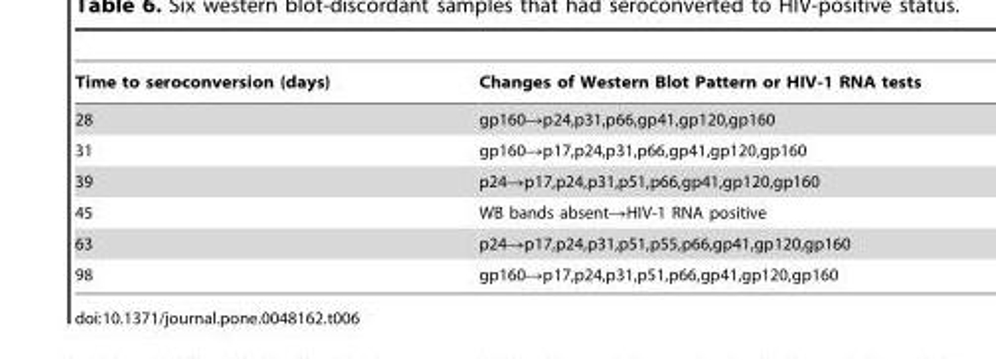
<table><thead><tr><td>Time to seroconversion (days)</td><td>Changes of Western Blot Pattern or HIV-1 RNA tests</td></tr></thead><tbody><tr><td>28</td><td>gp160→p24,p31,p66,gp41,gp120,gp160</td></tr><tr><td>31</td><td>gp160→p17,p24,p31,p66,gp41,gp120,gp160</td></tr><tr><td>39</td><td>p24→p17,p24,p31,p51,p66,gp41,gp120,gp160</td></tr><tr><td>45</td><td>WB bands absent→HIV-1 RNA positive</td></tr><tr><td>63</td><td>p24→p17,p24,p31,p51,p55,p66,gp41,gp120,gp160</td></tr><tr><td>98</td><td>gp160→p17,p24,p31,p51,p66,gp41,gp120,gp160</td></tr></tbody></table>